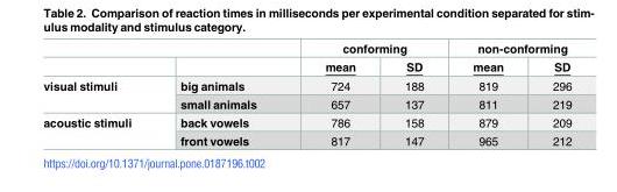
<table><thead><tr><td rowspan="2"></td><td rowspan="2"></td><td colspan="2">conforming</td><td colspan="2">non-conforming</td></tr><tr><td>mean</td><td>SD</td><td>mean</td><td>SD</td></tr></thead><tbody><tr><td rowspan="2">visual stimuli</td><td>big animals</td><td>724</td><td>188</td><td>819</td><td>296</td></tr><tr><td>small animals</td><td>657</td><td>137</td><td>811</td><td>219</td></tr><tr><td rowspan="2">acoustic stimuli</td><td>back vowels</td><td>786</td><td>158</td><td>879</td><td>209</td></tr><tr><td>front vowels</td><td>817</td><td>147</td><td>965</td><td>212</td></tr></tbody></table>